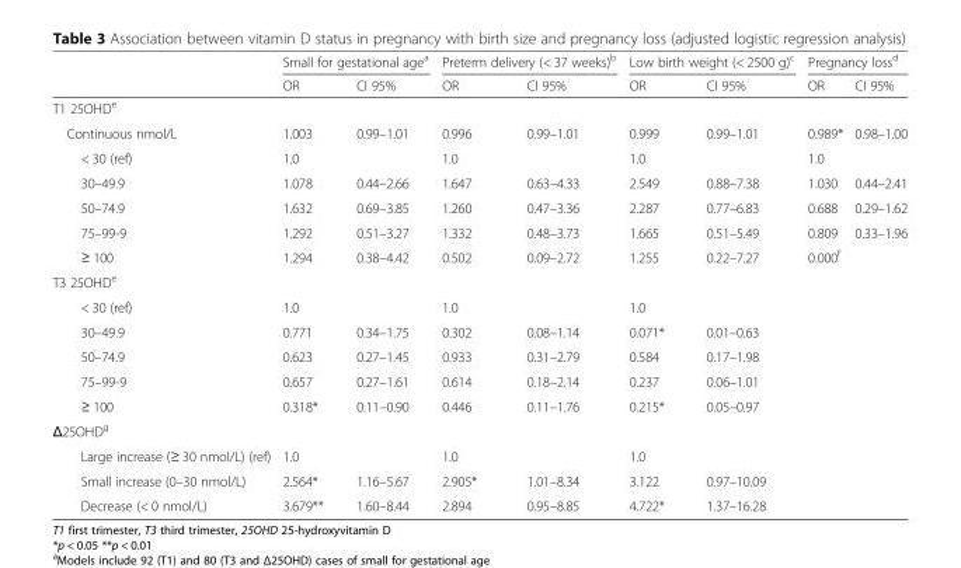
<table><thead><tr><td rowspan="2"></td><td colspan="2">Small for gestational age<sup>a</sup></td><td colspan="2">Preterm delivery (&lt; 37 weeks)<sup>b</sup></td><td colspan="2">Low birth weight (&lt; 2500 g)<sup>c</sup></td><td colspan="2">Pregnancy loss<sup>d</sup></td></tr><tr><td>OR</td><td>CI 95%</td><td>OR</td><td>CI 95%</td><td>OR</td><td>CI 95%</td><td>OR</td><td>CI 95%</td></tr></thead><tbody><tr><td colspan="9">T1 25OHD<sup>e</sup></td></tr><tr><td>Continuous nmol/L</td><td>1.003</td><td>0.99–1.01</td><td>0.996</td><td>0.99–1.01</td><td>0.999</td><td>0.99–1.01</td><td>0.989*</td><td>0.98–1.00</td></tr><tr><td>&lt; 30 (ref)</td><td>1.0</td><td></td><td>1.0</td><td></td><td>1.0</td><td></td><td>1.0</td><td></td></tr><tr><td>30–49.9</td><td>1.078</td><td>0.44–2.66</td><td>1.647</td><td>0.63–4.33</td><td>2.549</td><td>0.88–7.38</td><td>1.030</td><td>0.44–2.41</td></tr><tr><td>50–74.9</td><td>1.632</td><td>0.69–3.85</td><td>1.260</td><td>0.47–3.36</td><td>2.287</td><td>0.77–6.83</td><td>0.688</td><td>0.29–1.62</td></tr><tr><td>75–99-9</td><td>1.292</td><td>0.51–3.27</td><td>1.332</td><td>0.48–3.73</td><td>1.665</td><td>0.51–5.49</td><td>0.809</td><td>0.33–1.96</td></tr><tr><td>≥ 100</td><td>1.294</td><td>0.38–4.42</td><td>0.502</td><td>0.09–2.72</td><td>1.255</td><td>0.22–7.27</td><td>0.000<sup>f</sup></td><td></td></tr><tr><td colspan="9">T3 25OHD<sup>e</sup></td></tr><tr><td>&lt; 30 (ref)</td><td>1.0</td><td></td><td>1.0</td><td></td><td>1.0</td><td></td><td></td><td></td></tr><tr><td>30–49.9</td><td>0.771</td><td>0.34–1.75</td><td>0.302</td><td>0.08–1.14</td><td>0.071*</td><td>0.01–0.63</td><td></td><td></td></tr><tr><td>50–74.9</td><td>0.623</td><td>0.27–1.45</td><td>0.933</td><td>0.31–2.79</td><td>0.584</td><td>0.17–1.98</td><td></td><td></td></tr><tr><td>75–99-9</td><td>0.657</td><td>0.27–1.61</td><td>0.614</td><td>0.18–2.14</td><td>0.237</td><td>0.06–1.01</td><td></td><td></td></tr><tr><td>≥ 100</td><td>0.318*</td><td>0.11–0.90</td><td>0.446</td><td>0.11–1.76</td><td>0.215*</td><td>0.05–0.97</td><td></td><td></td></tr><tr><td colspan="9">Δ25OHD<sup>g</sup></td></tr><tr><td>Large increase (≥ 30 nmol/L) (ref)</td><td>1.0</td><td></td><td>1.0</td><td></td><td>1.0</td><td></td><td></td><td></td></tr><tr><td>Small increase (0–30 nmol/L)</td><td>2.564*</td><td>1.16–5.67</td><td>2.905*</td><td>1.01–8.34</td><td>3.122</td><td>0.97–10.09</td><td></td><td></td></tr><tr><td>Decrease (&lt; 0 nmol/L)</td><td>3.679**</td><td>1.60–8.44</td><td>2.894</td><td>0.95–8.85</td><td>4.722*</td><td>1.37–16.28</td><td></td><td></td></tr></tbody></table>